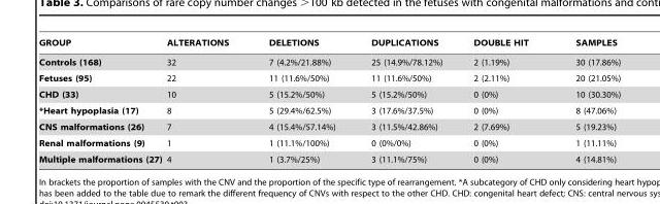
<table><thead><tr><td>GROUP</td><td>ALTERATIONS</td><td>DELETIONS</td><td>DUPLICATIONS</td><td>DOUBLE HIT</td><td>SAMPLES</td></tr></thead><tbody><tr><td>Controls (168)</td><td>32</td><td>7 (4.2%/21.88%)</td><td>25 (14.9%/78.12%)</td><td>2 (1.19%)</td><td>30 (17.86%)</td></tr><tr><td>Fetuses (95)</td><td>22</td><td>11 (11.6%/50%)</td><td>11 (11.6%/50%)</td><td>2 (2.11%)</td><td>20 (21.05%)</td></tr><tr><td>CHD (33)</td><td>10</td><td>5 (15.2%/50%)</td><td>5 (15.2%/50%)</td><td>0 (0%)</td><td>10 (30.30%)</td></tr><tr><td>*Heart hypoplasia (17)</td><td>8</td><td>5 (29.4%/62.5%)</td><td>3 (17.6%/37.5%)</td><td>0 (0%)</td><td>8 (47.06%)</td></tr><tr><td>CNS malformations (26)</td><td>7</td><td>4 (15.4%/57.14%)</td><td>3 (11.5%/42.86%)</td><td>2 (7.69%)</td><td>5 (19.23%)</td></tr><tr><td>Renal malformations (9)</td><td>1</td><td>1 (11.1%/100%)</td><td>0 (0%/0%)</td><td>0 (0%)</td><td>1 (11.11%)</td></tr><tr><td>Multiple malformations (27)</td><td>4</td><td>1 (3.7%/25%)</td><td>3 (11.1%/75%)</td><td>0 (0%)</td><td>4 (14.81%)</td></tr></tbody></table>